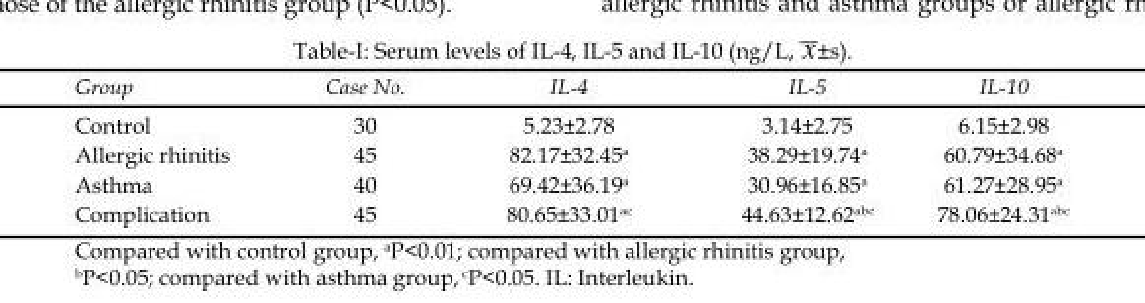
<table><thead><tr><td>Group</td><td>Case No.</td><td>IL-4</td><td>IL-5</td><td>IL-10</td></tr></thead><tbody><tr><td>Control</td><td>30</td><td>5.23±2.78</td><td>3.14±2.75</td><td>6.15±2.98</td></tr><tr><td>Allergic rhinitis</td><td>45</td><td>82.17±32.45<sup>a</sup></td><td>38.29±19.74<sup>a</sup></td><td>60.79±34.68<sup>a</sup></td></tr><tr><td>Asthma</td><td>40</td><td>69.42±36.19<sup>a</sup></td><td>30.96±16.85<sup>a</sup></td><td>61.27±28.95<sup>a</sup></td></tr><tr><td>Complication</td><td>45</td><td>80.65±33.01<sup>ac</sup></td><td>44.63±12.62<sup>abc</sup></td><td>78.06±24.31<sup>abc</sup></td></tr></tbody></table>